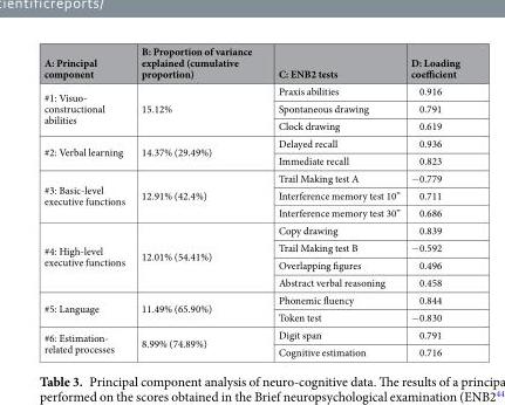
<table><thead><tr><td>A: Principal component</td><td>B: Proportion of variance explained (cumulative proportion)</td><td>C: ENB2 tests</td><td>D: Loading coefficient</td></tr></thead><tbody><tr><td rowspan="3">#1: Visuo- constructional abilities</td><td rowspan="3">15.12%</td><td>Praxis abilities</td><td>0.916</td></tr><tr><td>Spontaneous drawing</td><td>0.791</td></tr><tr><td>Clock drawing</td><td>0.619</td></tr><tr><td rowspan="2">#2: Verbal learning</td><td rowspan="2">14.37% (29.49%)</td><td>Delayed recall</td><td>0.936</td></tr><tr><td>Immediate recall</td><td>0.823</td></tr><tr><td rowspan="3">#3: Basic-level executive functions</td><td rowspan="3">12.91% (42.4%)</td><td>Trail Making test A</td><td>−0.779</td></tr><tr><td>Interference memory test 10”</td><td>0.711</td></tr><tr><td>Interference memory test 30”</td><td>0.686</td></tr><tr><td rowspan="4">#4: High-level executive functions</td><td rowspan="4">12.01% (54.41%)</td><td>Copy drawing</td><td>0.839</td></tr><tr><td>Trail Making test B</td><td>−0.592</td></tr><tr><td>Overlapping figures</td><td>0.496</td></tr><tr><td>Abstract verbal reasoning</td><td>0.458</td></tr><tr><td rowspan="2">#5: Language</td><td rowspan="2">11.49% (65.90%)</td><td>Phonemic fluency</td><td>0.844</td></tr><tr><td>Token test</td><td>−0.830</td></tr><tr><td rowspan="2">#6: Estimation- related processes</td><td rowspan="2">8.99% (74.89%)</td><td>Digit span</td><td>0.791</td></tr><tr><td>Cognitive estimation</td><td>0.716</td></tr></tbody></table>